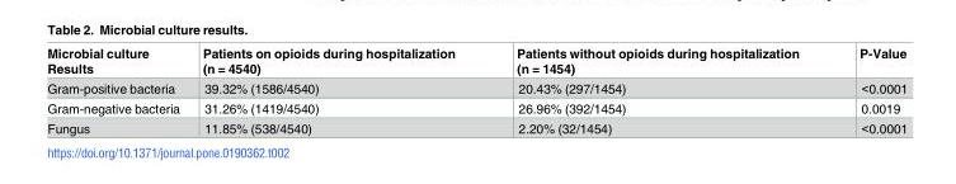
<table><thead><tr><td>Microbial culture Results</td><td>Patients on opioids during hospitalization (n = 4540)</td><td>Patients without opioids during hospitalization (n = 1454)</td><td>P-Value</td></tr></thead><tbody><tr><td>Gram-positive bacteria</td><td>39.32% (1586/4540)</td><td>20.43% (297/1454)</td><td>&lt;0.0001</td></tr><tr><td>Gram-negative bacteria</td><td>31.26% (1419/4540)</td><td>26.96% (392/1454)</td><td>0.0019</td></tr><tr><td>Fungus</td><td>11.85% (538/4540)</td><td>2.20% (32/1454)</td><td>&lt;0.0001</td></tr></tbody></table>